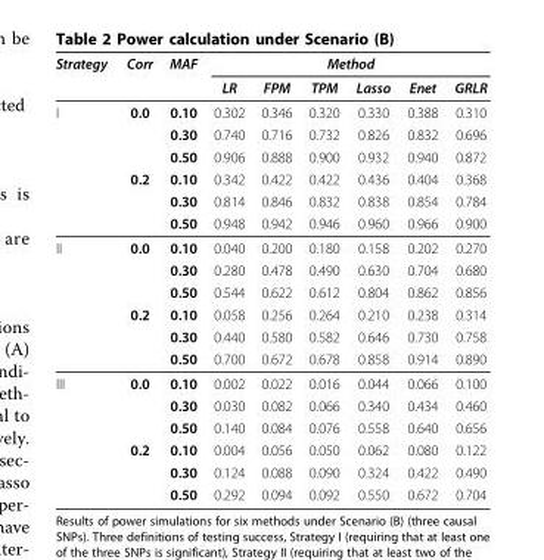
<table><thead><tr><td rowspan="2">Strategy</td><td rowspan="2">Corr</td><td rowspan="2">MAF</td><td colspan="6">Method</td></tr><tr><td>LR</td><td>FPM</td><td>TPM</td><td>Lasso</td><td>Enet</td><td>GRLR</td></tr></thead><tbody><tr><td rowspan="6">I</td><td>0.0</td><td>0.10</td><td>0.302</td><td>0.346</td><td>0.320</td><td>0.330</td><td>0.388</td><td>0.310</td></tr><tr><td></td><td>0.30</td><td>0.740</td><td>0.716</td><td>0.732</td><td>0.826</td><td>0.832</td><td>0.696</td></tr><tr><td></td><td>0.50</td><td>0.906</td><td>0.888</td><td>0.900</td><td>0.932</td><td>0.940</td><td>0.872</td></tr><tr><td>0.2</td><td>0.10</td><td>0.342</td><td>0.422</td><td>0.422</td><td>0.436</td><td>0.404</td><td>0.368</td></tr><tr><td></td><td>0.30</td><td>0.814</td><td>0.846</td><td>0.832</td><td>0.838</td><td>0.854</td><td>0.784</td></tr><tr><td></td><td>0.50</td><td>0.948</td><td>0.942</td><td>0.946</td><td>0.960</td><td>0.966</td><td>0.900</td></tr><tr><td rowspan="6">II</td><td>0.0</td><td>0.10</td><td>0.040</td><td>0.200</td><td>0.180</td><td>0.158</td><td>0.202</td><td>0.270</td></tr><tr><td></td><td>0.30</td><td>0.280</td><td>0.478</td><td>0.490</td><td>0.630</td><td>0.704</td><td>0.680</td></tr><tr><td></td><td>0.50</td><td>0.544</td><td>0.622</td><td>0.612</td><td>0.804</td><td>0.862</td><td>0.856</td></tr><tr><td>0.2</td><td>0.10</td><td>0.058</td><td>0.256</td><td>0.264</td><td>0.210</td><td>0.238</td><td>0.314</td></tr><tr><td></td><td>0.30</td><td>0.440</td><td>0.580</td><td>0.582</td><td>0.646</td><td>0.730</td><td>0.758</td></tr><tr><td></td><td>0.50</td><td>0.700</td><td>0.672</td><td>0.678</td><td>0.858</td><td>0.914</td><td>0.890</td></tr><tr><td rowspan="6">III</td><td>0.0</td><td>0.10</td><td>0.002</td><td>0.022</td><td>0.016</td><td>0.044</td><td>0.066</td><td>0.100</td></tr><tr><td></td><td>0.30</td><td>0.030</td><td>0.082</td><td>0.066</td><td>0.340</td><td>0.434</td><td>0.460</td></tr><tr><td></td><td>0.50</td><td>0.140</td><td>0.084</td><td>0.076</td><td>0.558</td><td>0.640</td><td>0.656</td></tr><tr><td>0.2</td><td>0.10</td><td>0.004</td><td>0.056</td><td>0.050</td><td>0.062</td><td>0.080</td><td>0.122</td></tr><tr><td></td><td>0.30</td><td>0.124</td><td>0.088</td><td>0.090</td><td>0.324</td><td>0.422</td><td>0.490</td></tr><tr><td></td><td>0.50</td><td>0.292</td><td>0.094</td><td>0.092</td><td>0.550</td><td>0.672</td><td>0.704</td></tr></tbody></table>